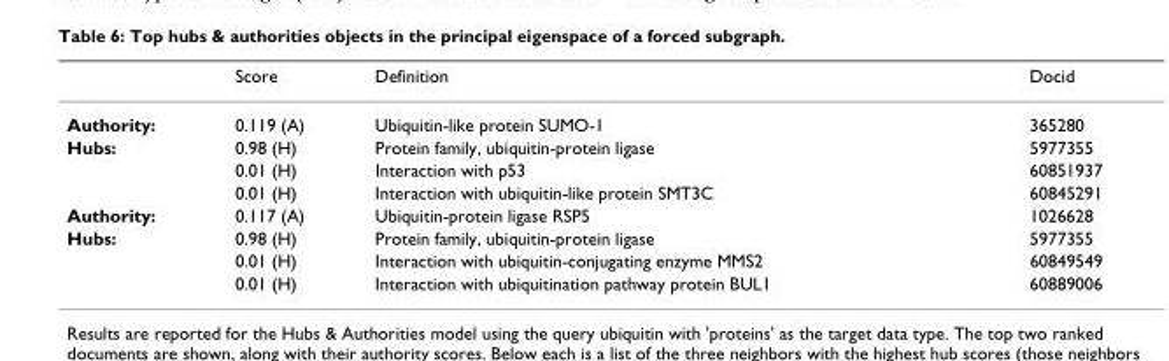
<table><thead><tr><td></td><td>Score</td><td>Definition</td><td>Docid</td></tr></thead><tbody><tr><td>Authority:</td><td>0.119 (A)</td><td>Ubiquitin-like protein SUMO-1</td><td>365280</td></tr><tr><td rowspan="3">Hubs:</td><td>0.98 (H)</td><td>Protein family, ubiquitin-protein ligase</td><td>5977355</td></tr><tr><td>0.01 (H)</td><td>Interaction with p53</td><td>60851937</td></tr><tr><td>0.01 (H)</td><td>Interaction with ubiquitin-like protein SMT3C</td><td>60845291</td></tr><tr><td>Authority:</td><td>0.117 (A)</td><td>Ubiquitin-protein ligase RSP5</td><td>1026628</td></tr><tr><td rowspan="3">Hubs:</td><td>0.98 (H)</td><td>Protein family, ubiquitin-protein ligase</td><td>5977355</td></tr><tr><td>0.01 (H)</td><td>Interaction with ubiquitin-conjugating enzyme MMS2</td><td>60849549</td></tr><tr><td>0.01 (H)</td><td>Interaction with ubiquitination pathway protein BUL1</td><td>60889006</td></tr></tbody></table>